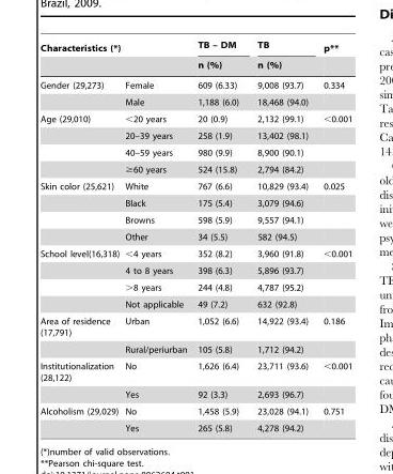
<table><thead><tr><td colspan="2">Characteristics (*)</td><td rowspan="2">TB – DM n (%)</td><td rowspan="2">TB n (%)</td><td rowspan="2">p**</td></tr><tr><td></td><td></td></tr></thead><tbody><tr><td rowspan="2">Gender (29,273)</td><td>Female</td><td>609 (6.33)</td><td>9,008 (93.7)</td><td>0.334</td></tr><tr><td>Male</td><td>1,188 (6.0)</td><td>18,468 (94.0)</td><td></td></tr><tr><td rowspan="4">Age (29,010)</td><td>&lt;20 years</td><td>20 (0.9)</td><td>2,132 (99.1)</td><td>&lt;0.001</td></tr><tr><td>20–39 years</td><td>258 (1.9)</td><td>13,402 (98.1)</td><td></td></tr><tr><td>40–59 years</td><td>980 (9.9)</td><td>8,900 (90.1)</td><td></td></tr><tr><td>≥60 years</td><td>524 (15.8)</td><td>2,794 (84.2)</td><td></td></tr><tr><td rowspan="4">Skin color (25,621)</td><td>White</td><td>767 (6.6)</td><td>10,829 (93.4)</td><td>0.025</td></tr><tr><td>Black</td><td>175 (5.4)</td><td>3,079 (94.6)</td><td></td></tr><tr><td>Browns</td><td>598 (5.9)</td><td>9,557 (94.1)</td><td></td></tr><tr><td>Other</td><td>34 (5.5)</td><td>582 (94.5)</td><td></td></tr><tr><td rowspan="4">School level(16,318)</td><td>&lt;4 years</td><td>352 (8.2)</td><td>3,960 (91.8)</td><td>&lt;0.001</td></tr><tr><td>4 to 8 years</td><td>398 (6.3)</td><td>5,896 (93.7)</td><td></td></tr><tr><td>&gt;8 years</td><td>244 (4.8)</td><td>4,787 (95.2)</td><td></td></tr><tr><td>Not applicable</td><td>49 (7.2)</td><td>632 (92.8)</td><td></td></tr><tr><td rowspan="2">Area of residence (17,791)</td><td>Urban</td><td>1,052 (6.6)</td><td>14,922 (93.4)</td><td>0.186</td></tr><tr><td>Rural/periurban</td><td>105 (5.8)</td><td>1,712 (94.2)</td><td></td></tr><tr><td rowspan="2">Institutionalization (28,122)</td><td>No</td><td>1,626 (6.4)</td><td>23,711 (93.6)</td><td>&lt;0.001</td></tr><tr><td>Yes</td><td>92 (3.3)</td><td>2,693 (96.7)</td><td></td></tr><tr><td rowspan="2">Alcoholism (29,029)</td><td>No</td><td>1,458 (5.9)</td><td>23,028 (94.1)</td><td>0.751</td></tr><tr><td>Yes</td><td>265 (5.8)</td><td>4,278 (94.2)</td><td></td></tr></tbody></table>